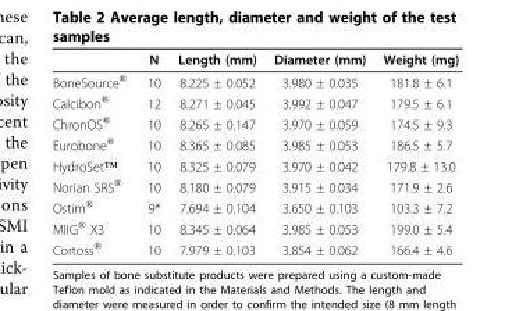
<table><thead><tr><td></td><td>N</td><td>Length (mm)</td><td>Diameter (mm)</td><td>Weight (mg)</td></tr></thead><tbody><tr><td>BoneSource<sup>®</sup></td><td>10</td><td>8.225 ± 0.052</td><td>3.980 ± 0.035</td><td>181.8 ± 6.1</td></tr><tr><td>Calcibon<sup>®</sup></td><td>12</td><td>8.271 ± 0.045</td><td>3.992 ± 0.047</td><td>179.5 ± 6.1</td></tr><tr><td>ChronOS<sup>®</sup></td><td>10</td><td>8.265 ± 0.147</td><td>3.970 ± 0.059</td><td>174.5 ± 9.3</td></tr><tr><td>Eurobone<sup>®</sup></td><td>10</td><td>8.365 ± 0.085</td><td>3.985 ± 0.053</td><td>186.5 ± 5.7</td></tr><tr><td>HydroSet™</td><td>10</td><td>8.325 ± 0.079</td><td>3.970 ± 0.042</td><td>179.8 ± 13.0</td></tr><tr><td>Norian SRS<sup>®</sup></td><td>10</td><td>8.180 ± 0.079</td><td>3.915 ± 0.034</td><td>171.9 ± 2.6</td></tr><tr><td>Ostim<sup>®</sup></td><td>9*</td><td>7.694 ± 0.104</td><td>3.650 ± 0.103</td><td>103.3 ± 7.2</td></tr><tr><td>MIIG<sup>®</sup> X3</td><td>10</td><td>8.345 ± 0.064</td><td>3.985 ± 0.053</td><td>199.0 ± 5.4</td></tr><tr><td>Cortoss<sup>®</sup></td><td>10</td><td>7.979 ± 0.103</td><td>3.854 ± 0.062</td><td>166.4 ± 4.6</td></tr></tbody></table>